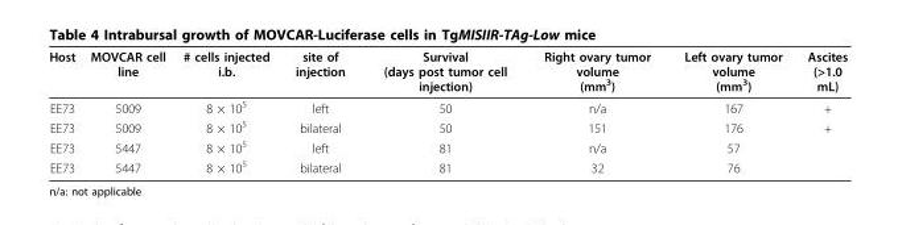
<table><thead><tr><td>Host</td><td>MOVCAR cell line</td><td># cells injected i.b.</td><td>site of injection</td><td>Survival (days post tumor cell injection)</td><td>Right ovary tumor volume (mm<sup>3</sup>)</td><td>Left ovary tumor volume (mm<sup>3</sup>)</td><td>Ascites (&gt;1.0 mL)</td></tr></thead><tbody><tr><td>EE73</td><td>5009</td><td>8 × 10<sup>5</sup></td><td>left</td><td>50</td><td>n/a</td><td>167</td><td>+</td></tr><tr><td>EE73</td><td>5009</td><td>8 × 10<sup>5</sup></td><td>bilateral</td><td>50</td><td>151</td><td>176</td><td>+</td></tr><tr><td>EE73</td><td>5447</td><td>8 × 10<sup>5</sup></td><td>left</td><td>81</td><td>n/a</td><td>57</td><td></td></tr><tr><td>EE73</td><td>5447</td><td>8 × 10<sup>5</sup></td><td>bilateral</td><td>81</td><td>32</td><td>76</td><td></td></tr></tbody></table>